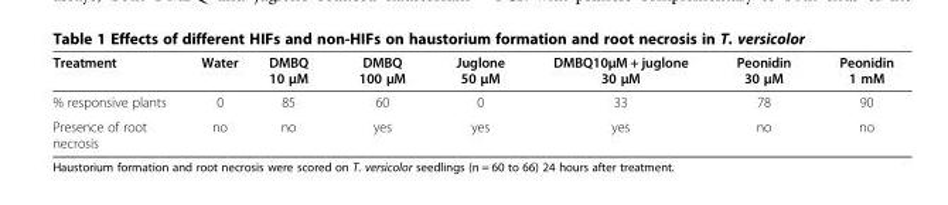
<table><thead><tr><td>Treatment</td><td>Water</td><td>DMBQ 10 μM</td><td>DMBQ 100 μM</td><td>Juglone 50 μM</td><td>DMBQ10μM + juglone 30 μM</td><td>Peonidin 30 μM</td><td>Peonidin 1 mM</td></tr></thead><tbody><tr><td>% responsive plants</td><td>0</td><td>85</td><td>60</td><td>0</td><td>33</td><td>78</td><td>90</td></tr><tr><td>Presence of root necrosis</td><td>no</td><td>no</td><td>yes</td><td>yes</td><td>yes</td><td>no</td><td>no</td></tr></tbody></table>